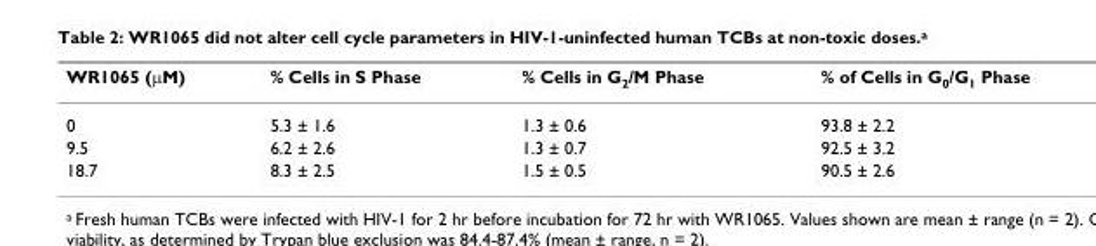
<table><thead><tr><td>WR1065 (μM)</td><td>% Cells in S Phase</td><td>% Cells in G<sub>2</sub>/M Phase</td><td>% of Cells in G<sub>0</sub>/G<sub>1</sub> Phase</td></tr></thead><tbody><tr><td>0</td><td>5.3 ± 1.6</td><td>1.3 ± 0.6</td><td>93.8 ± 2.2</td></tr><tr><td>9.5</td><td>6.2 ± 2.6</td><td>1.3 ± 0.7</td><td>92.5 ± 3.2</td></tr><tr><td>18.7</td><td>8.3 ± 2.5</td><td>1.5 ± 0.5</td><td>90.5 ± 2.6</td></tr></tbody></table>